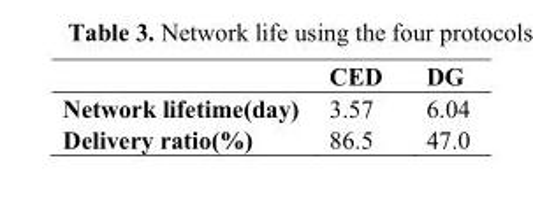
<table><thead><tr><td></td><td>CED</td><td>DG</td></tr></thead><tbody><tr><td>Network lifetime(day)</td><td>3.57</td><td>6.04</td></tr><tr><td>Delivery ratio(%)</td><td>86.5</td><td>47.0</td></tr></tbody></table>